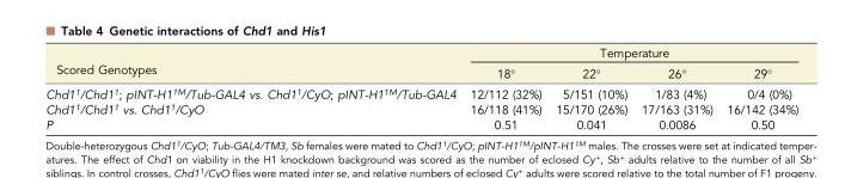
<table><thead><tr><td rowspan="2">Scored Genotypes</td><td colspan="4">Temperature</td></tr><tr><td>18°</td><td>22°</td><td>26°</td><td>29°</td></tr></thead><tbody><tr><td>Chd1<sup>1</sup>/Chd1<sup>1</sup>; pINT-H1<sup>1M</sup>/Tub-GAL4 vs. Chd1<sup>1</sup>/CyO; pINT-H1<sup>1M</sup>/Tub-GAL4</td><td>12/112 (32%)</td><td>5/151 (10%)</td><td>1/83 (4%)</td><td>0/4 (0%)</td></tr><tr><td>Chd1<sup>1</sup>/Chd1<sup>1</sup> vs. Chd1<sup>1</sup>/CyO</td><td>16/118 (41%)</td><td>15/170 (26%)</td><td>17/163 (31%)</td><td>16/142 (34%)</td></tr><tr><td>P</td><td>0.51</td><td>0.041</td><td>0.0086</td><td>0.50</td></tr></tbody></table>